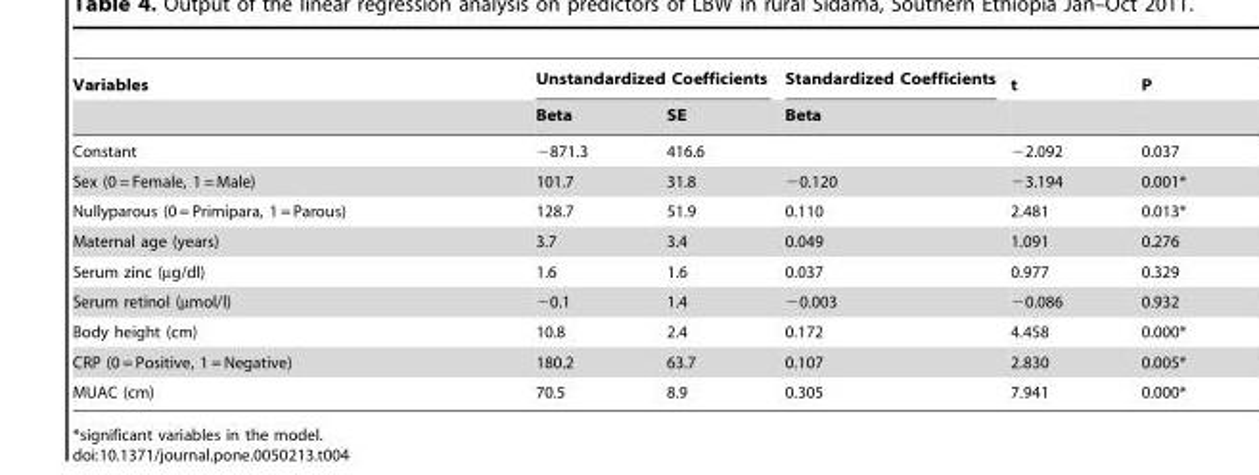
<table><thead><tr><td rowspan="2">Variables</td><td colspan="2">Unstandardized Coefficients</td><td rowspan="2">Standardized Coefficients Beta</td><td rowspan="2">t</td><td rowspan="2">P</td></tr><tr><td>Beta</td><td>SE</td></tr></thead><tbody><tr><td>Constant</td><td>−871.3</td><td>416.6</td><td></td><td>−2.092</td><td>0.037</td></tr><tr><td>Sex (0 = Female, 1 = Male)</td><td>101.7</td><td>31.8</td><td>−0.120</td><td>−3.194</td><td>0.001*</td></tr><tr><td>Nullyparous (0 = Primipara, 1 = Parous)</td><td>128.7</td><td>51.9</td><td>0.110</td><td>2.481</td><td>0.013*</td></tr><tr><td>Maternal age (years)</td><td>3.7</td><td>3.4</td><td>0.049</td><td>1.091</td><td>0.276</td></tr><tr><td>Serum zinc (µg/dl)</td><td>1.6</td><td>1.6</td><td>0.037</td><td>0.977</td><td>0.329</td></tr><tr><td>Serum retinol (µmol/l)</td><td>−0.1</td><td>1.4</td><td>−0.003</td><td>−0.086</td><td>0.932</td></tr><tr><td>Body height (cm)</td><td>10.8</td><td>2.4</td><td>0.172</td><td>4.458</td><td>0.000*</td></tr><tr><td>CRP (0 = Positive, 1 = Negative)</td><td>180.2</td><td>63.7</td><td>0.107</td><td>2.830</td><td>0.005*</td></tr><tr><td>MUAC (cm)</td><td>70.5</td><td>8.9</td><td>0.305</td><td>7.941</td><td>0.000*</td></tr></tbody></table>